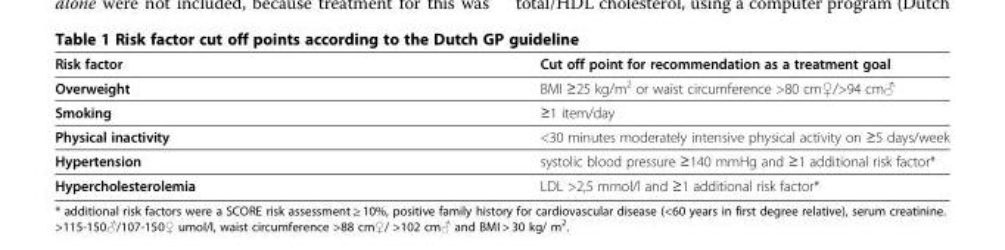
<table><thead><tr><td>Risk factor</td><td>Cut off point for recommendation as a treatment goal</td></tr></thead><tbody><tr><td>Overweight</td><td>BMI ≥25 kg/m<sup>2</sup> or waist circumference &gt;80 cm♀/&gt;94 cm♂</td></tr><tr><td>Smoking</td><td>≥1 item/day</td></tr><tr><td>Physical inactivity</td><td>&lt;30 minutes moderately intensive physical activity on ≥5 days/week</td></tr><tr><td>Hypertension</td><td>systolic blood pressure ≥140 mmHg and ≥1 additional risk factor*</td></tr><tr><td>Hypercholesterolemia</td><td>LDL &gt;2,5 mmol/l and ≥1 additional risk factor*</td></tr></tbody></table>